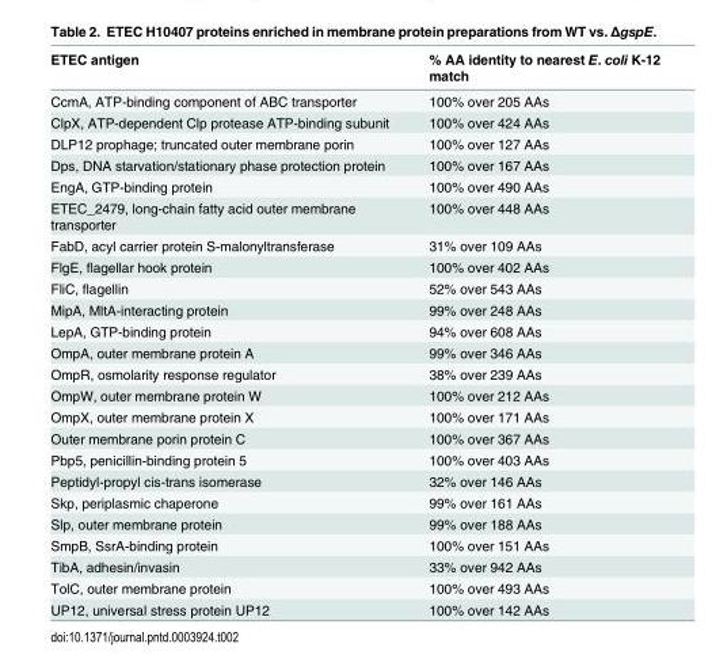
<table><thead><tr><td>ETEC antigen</td><td>% AA identity to nearest E. coli K-12 match</td></tr></thead><tbody><tr><td>CcmA, ATP-binding component of ABC transporter</td><td>100% over 205 AAs</td></tr><tr><td>ClpX, ATP-dependent Clp protease ATP-binding subunit</td><td>100% over 424 AAs</td></tr><tr><td>DLP12 prophage; truncated outer membrane porin</td><td>100% over 127 AAs</td></tr><tr><td>Dps, DNA starvation/stationary phase protection protein</td><td>100% over 167 AAs</td></tr><tr><td>EngA, GTP-binding protein</td><td>100% over 490 AAs</td></tr><tr><td>ETEC_2479, long-chain fatty acid outer membrane transporter</td><td>100% over 448 AAs</td></tr><tr><td>FabD, acyl carrier protein S-malonyltransferase</td><td>31% over 109 AAs</td></tr><tr><td>FlgE, flagellar hook protein</td><td>100% over 402 AAs</td></tr><tr><td>FliC, flagellin</td><td>52% over 543 AAs</td></tr><tr><td>MipA, MltA-interacting protein</td><td>99% over 248 AAs</td></tr><tr><td>LepA, GTP-binding protein</td><td>94% over 608 AAs</td></tr><tr><td>OmpA, outer membrane protein A</td><td>99% over 346 AAs</td></tr><tr><td>OmpR, osmolarity response regulator</td><td>38% over 239 AAs</td></tr><tr><td>OmpW, outer membrane protein W</td><td>100% over 212 AAs</td></tr><tr><td>OmpX, outer membrane protein X</td><td>100% over 171 AAs</td></tr><tr><td>Outer membrane porin protein C</td><td>100% over 367 AAs</td></tr><tr><td>Pbp5, penicillin-binding protein 5</td><td>100% over 403 AAs</td></tr><tr><td>Peptidyl-propyl cis-trans isomerase</td><td>32% over 146 AAs</td></tr><tr><td>Skp, periplasmic chaperone</td><td>99% over 161 AAs</td></tr><tr><td>Slp, outer membrane protein</td><td>99% over 188 AAs</td></tr><tr><td>SmpB, SsrA-binding protein</td><td>100% over 151 AAs</td></tr><tr><td>TibA, adhesin/invasin</td><td>33% over 942 AAs</td></tr><tr><td>TolC, outer membrane protein</td><td>100% over 493 AAs</td></tr><tr><td>UP12, universal stress protein UP12</td><td>100% over 142 AAs</td></tr></tbody></table>